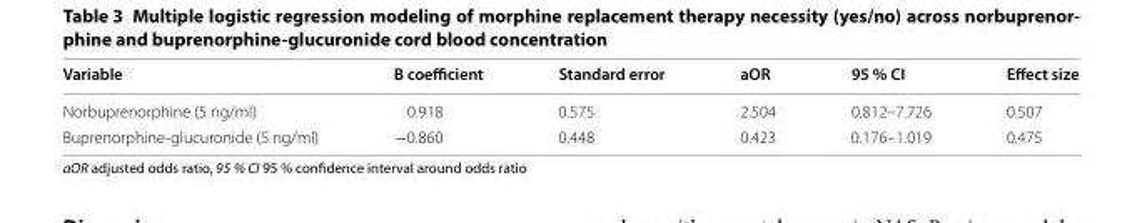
<table><thead><tr><td>Variable</td><td>B coefficient</td><td>Standard error</td><td>aOR</td><td>95 % CI</td><td>Effect size</td></tr></thead><tbody><tr><td>Norbuprenorphine (5 ng/ml)</td><td>0.918</td><td>0.575</td><td>2.504</td><td>0.812–7.726</td><td>0.507</td></tr><tr><td>Buprenorphine-glucuronide (5 ng/ml)</td><td>−0.860</td><td>0.448</td><td>0.423</td><td>0.176–1.019</td><td>0.475</td></tr></tbody></table>